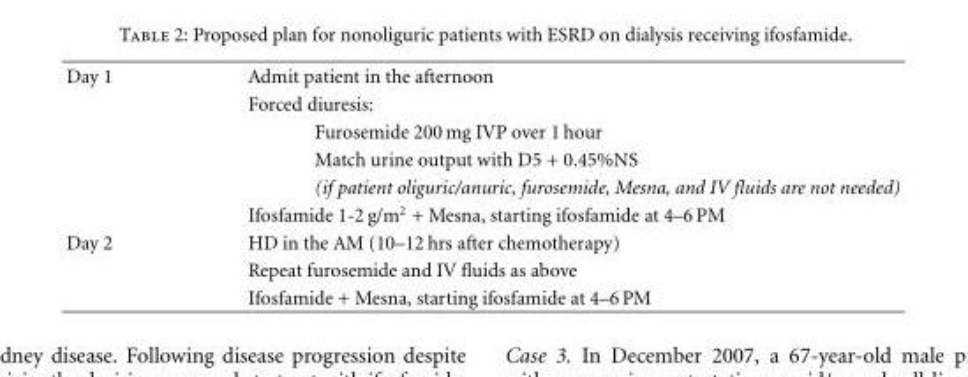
<table><tbody><tr><td rowspan="6">Day 1</td><td>Admit patient in the afternoon</td></tr><tr><td>Forced diuresis:</td></tr><tr><td>Furosemide 200 mg IVP over 1 hour</td></tr><tr><td>Match urine output with D5 + 0.45%NS</td></tr><tr><td>(if patient oliguric/anuric, furosemide, Mesna, and IV fluids are not needed)</td></tr><tr><td>Ifosfamide 1-2 g/m<sup>2</sup> + Mesna, starting ifosfamide at 4–6 PM</td></tr><tr><td rowspan="3">Day 2</td><td>HD in the AM (10–12 hrs after chemotherapy)</td></tr><tr><td>Repeat furosemide and IV fluids as above</td></tr><tr><td>Ifosfamide + Mesna, starting ifosfamide at 4–6 PM</td></tr></tbody></table>